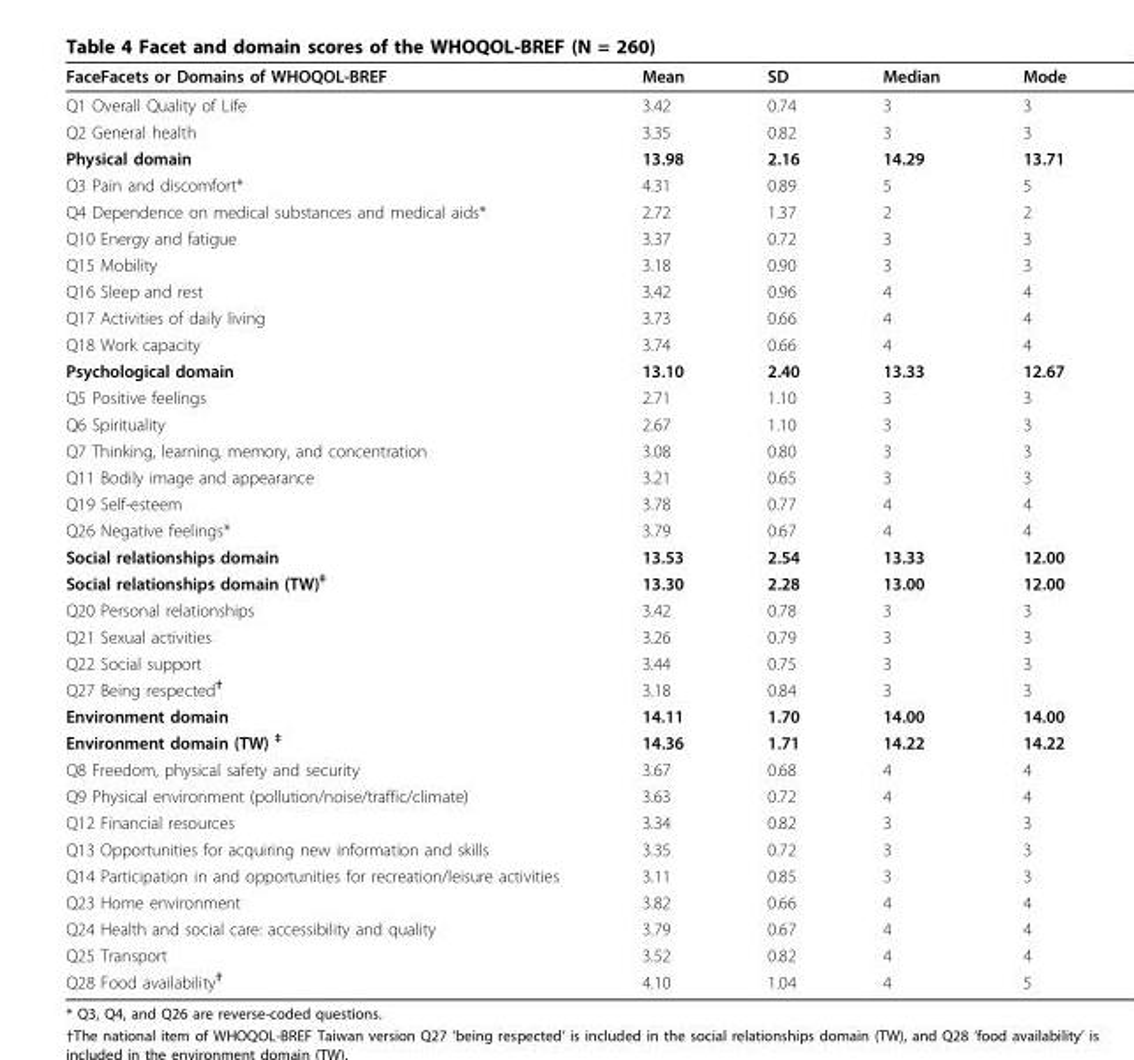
<table><thead><tr><td>FaceFacets or Domains of WHOQOL-BREF</td><td>Mean</td><td>SD</td><td>Median</td><td>Mode</td></tr></thead><tbody><tr><td>Q1 Overall Quality of Life</td><td>3.42</td><td>0.74</td><td>3</td><td>3</td></tr><tr><td>Q2 General health</td><td>3.35</td><td>0.82</td><td>3</td><td>3</td></tr><tr><td>Physical domain</td><td>13.98</td><td>2.16</td><td>14.29</td><td>13.71</td></tr><tr><td>Q3 Pain and discomfort*</td><td>4.31</td><td>0.89</td><td>5</td><td>5</td></tr><tr><td>Q4 Dependence on medical substances and medical aids*</td><td>2.72</td><td>1.37</td><td>2</td><td>2</td></tr><tr><td>Q10 Energy and fatigue</td><td>3.37</td><td>0.72</td><td>3</td><td>3</td></tr><tr><td>Q15 Mobility</td><td>3.18</td><td>0.90</td><td>3</td><td>3</td></tr><tr><td>Q16 Sleep and rest</td><td>3.42</td><td>0.96</td><td>4</td><td>4</td></tr><tr><td>Q17 Activities of daily living</td><td>3.73</td><td>0.66</td><td>4</td><td>4</td></tr><tr><td>Q18 Work capacity</td><td>3.74</td><td>0.66</td><td>4</td><td>4</td></tr><tr><td>Psychological domain</td><td>13.10</td><td>2.40</td><td>13.33</td><td>12.67</td></tr><tr><td>Q5 Positive feelings</td><td>2.71</td><td>1.10</td><td>3</td><td>3</td></tr><tr><td>Q6 Spirituality</td><td>2.67</td><td>1.10</td><td>3</td><td>3</td></tr><tr><td>Q7 Thinking, learning, memory, and concentration</td><td>3.08</td><td>0.80</td><td>3</td><td>3</td></tr><tr><td>Q11 Bodily image and appearance</td><td>3.21</td><td>0.65</td><td>3</td><td>3</td></tr><tr><td>Q19 Self-esteem</td><td>3.78</td><td>0.77</td><td>4</td><td>4</td></tr><tr><td>Q26 Negative feelings*</td><td>3.79</td><td>0.67</td><td>4</td><td>4</td></tr><tr><td>Social relationships domain</td><td>13.53</td><td>2.54</td><td>13.33</td><td>12.00</td></tr><tr><td>Social relationships domain (TW)<sup>‡</sup></td><td>13.30</td><td>2.28</td><td>13.00</td><td>12.00</td></tr><tr><td>Q20 Personal relationships</td><td>3.42</td><td>0.78</td><td>3</td><td>3</td></tr><tr><td>Q21 Sexual activities</td><td>3.26</td><td>0.79</td><td>3</td><td>3</td></tr><tr><td>Q22 Social support</td><td>3.44</td><td>0.75</td><td>3</td><td>3</td></tr><tr><td>Q27 Being respected<sup>†</sup></td><td>3.18</td><td>0.84</td><td>3</td><td>3</td></tr><tr><td>Environment domain</td><td>14.11</td><td>1.70</td><td>14.00</td><td>14.00</td></tr><tr><td>Environment domain (TW) <sup>‡</sup></td><td>14.36</td><td>1.71</td><td>14.22</td><td>14.22</td></tr><tr><td>Q8 Freedom, physical safety and security</td><td>3.67</td><td>0.68</td><td>4</td><td>4</td></tr><tr><td>Q9 Physical environment (pollution/noise/traffic/climate)</td><td>3.63</td><td>0.72</td><td>4</td><td>4</td></tr><tr><td>Q12 Financial resources</td><td>3.34</td><td>0.82</td><td>3</td><td>3</td></tr><tr><td>Q13 Opportunities for acquiring new information and skills</td><td>3.35</td><td>0.72</td><td>3</td><td>3</td></tr><tr><td>Q14 Participation in and opportunities for recreation/leisure activities</td><td>3.11</td><td>0.85</td><td>3</td><td>3</td></tr><tr><td>Q23 Home environment</td><td>3.82</td><td>0.66</td><td>4</td><td>4</td></tr><tr><td>Q24 Health and social care: accessibility and quality</td><td>3.79</td><td>0.67</td><td>4</td><td>4</td></tr><tr><td>Q25 Transport</td><td>3.52</td><td>0.82</td><td>4</td><td>4</td></tr><tr><td>Q28 Food availability<sup>†</sup></td><td>4.10</td><td>1.04</td><td>4</td><td>5</td></tr></tbody></table>